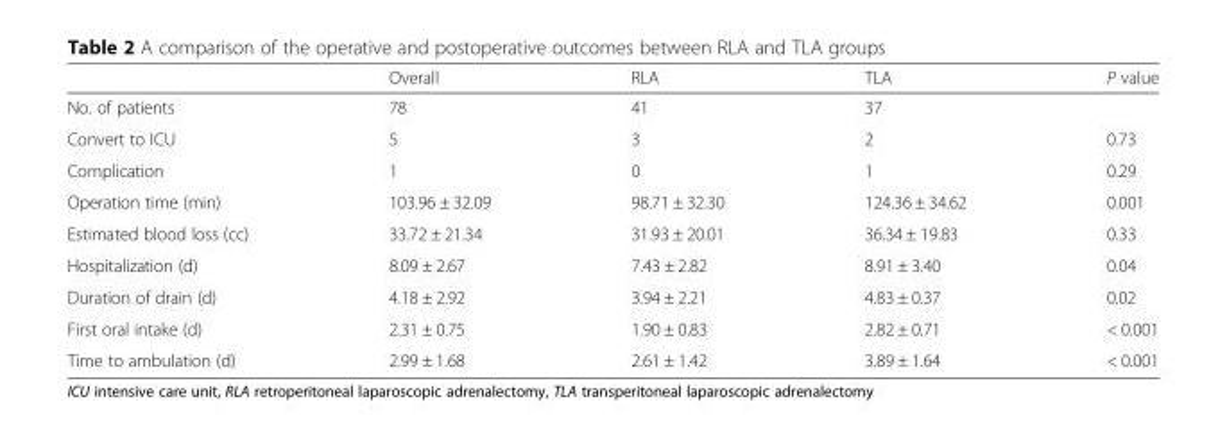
<table><thead><tr><td></td><td>Overall</td><td>RLA</td><td>TLA</td><td>P value</td></tr></thead><tbody><tr><td>No. of patients</td><td>78</td><td>41</td><td>37</td><td></td></tr><tr><td>Convert to ICU</td><td>5</td><td>3</td><td>2</td><td>0.73</td></tr><tr><td>Complication</td><td>1</td><td>0</td><td>1</td><td>0.29</td></tr><tr><td>Operation time (min)</td><td>103.96 ± 32.09</td><td>98.71 ± 32.30</td><td>124.36 ± 34.62</td><td>0.001</td></tr><tr><td>Estimated blood loss (cc)</td><td>33.72 ± 21.34</td><td>31.93 ± 20.01</td><td>36.34 ± 19.83</td><td>0.33</td></tr><tr><td>Hospitalization (d)</td><td>8.09 ± 2.67</td><td>7.43 ± 2.82</td><td>8.91 ± 3.40</td><td>0.04</td></tr><tr><td>Duration of drain (d)</td><td>4.18 ± 2.92</td><td>3.94 ± 2.21</td><td>4.83 ± 0.37</td><td>0.02</td></tr><tr><td>First oral intake (d)</td><td>2.31 ± 0.75</td><td>1.90 ± 0.83</td><td>2.82 ± 0.71</td><td>&lt; 0.001</td></tr><tr><td>Time to ambulation (d)</td><td>2.99 ± 1.68</td><td>2.61 ± 1.42</td><td>3.89 ± 1.64</td><td>&lt; 0.001</td></tr></tbody></table>